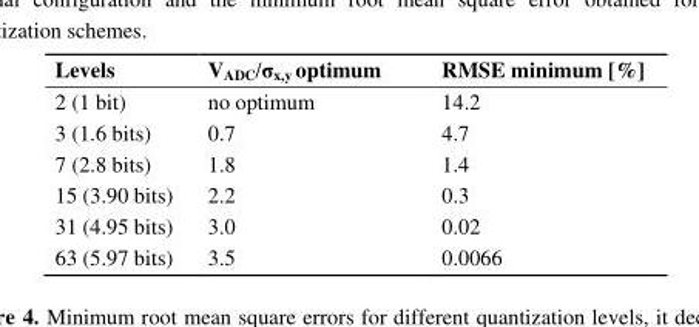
<table><thead><tr><td>Levels</td><td>V<sub>ADC</sub>/σ<sub>x,y</sub> optimum</td><td>RMSE minimum [%]</td></tr></thead><tbody><tr><td>2 (1 bit)</td><td>no optimum</td><td>14.2</td></tr><tr><td>3 (1.6 bits)</td><td>0.7</td><td>4.7</td></tr><tr><td>7 (2.8 bits)</td><td>1.8</td><td>1.4</td></tr><tr><td>15 (3.90 bits)</td><td>2.2</td><td>0.3</td></tr><tr><td>31 (4.95 bits)</td><td>3.0</td><td>0.02</td></tr><tr><td>63 (5.97 bits)</td><td>3.5</td><td>0.0066</td></tr></tbody></table>